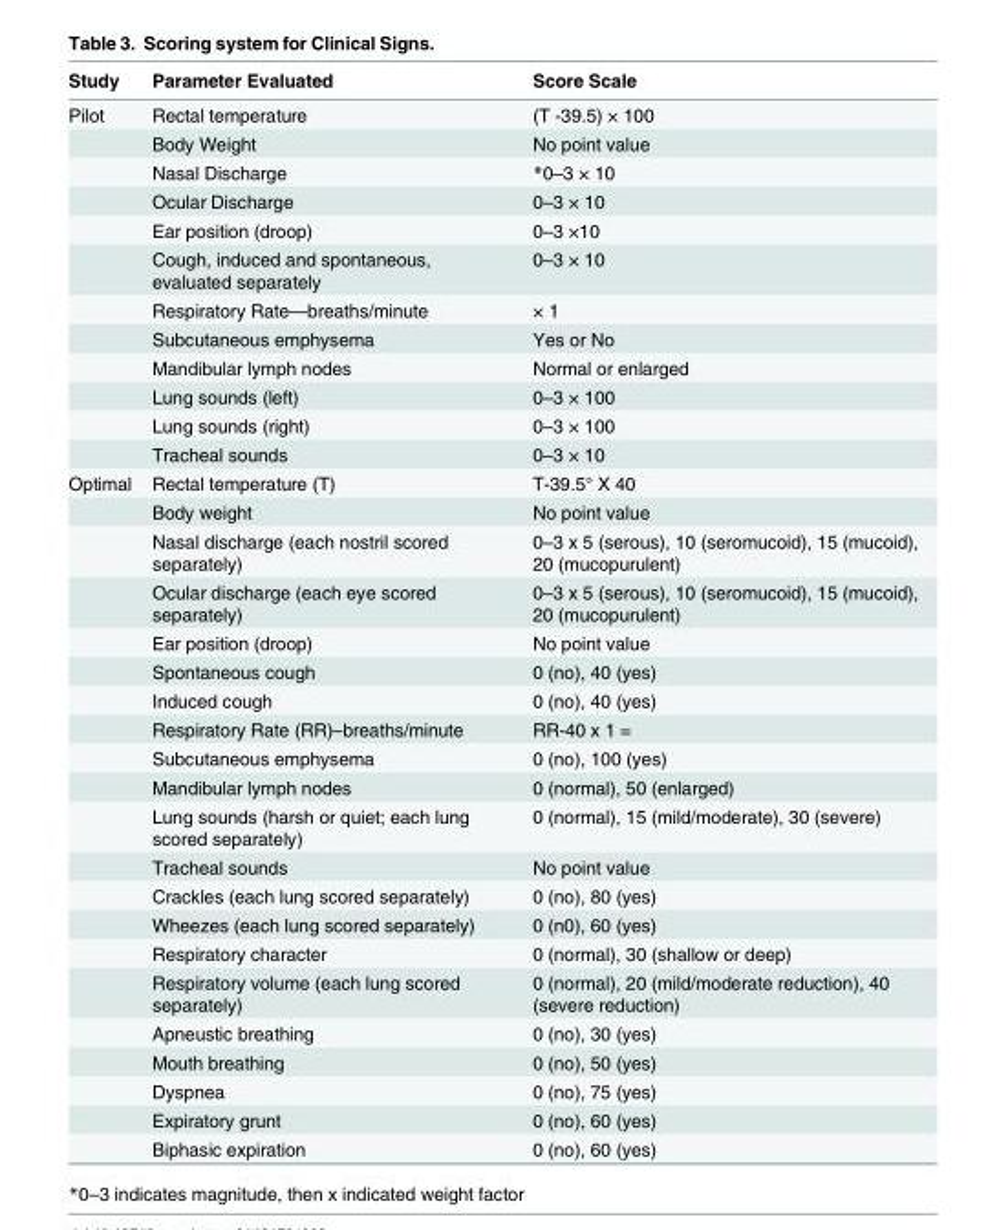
<table><thead><tr><td>Study</td><td>Parameter Evaluated</td><td>Score Scale</td></tr></thead><tbody><tr><td rowspan="12">Pilot</td><td>Rectal temperature</td><td>(T -39.5) × 100</td></tr><tr><td>Body Weight</td><td>No point value</td></tr><tr><td>Nasal Discharge</td><td>*0–3 × 10</td></tr><tr><td>Ocular Discharge</td><td>0–3 × 10</td></tr><tr><td>Ear position (droop)</td><td>0–3 ×10</td></tr><tr><td>Cough, induced and spontaneous, evaluated separately</td><td>0–3 × 10</td></tr><tr><td>Respiratory Rate—breaths/minute</td><td>× 1</td></tr><tr><td>Subcutaneous emphysema</td><td>Yes or No</td></tr><tr><td>Mandibular lymph nodes</td><td>Normal or enlarged</td></tr><tr><td>Lung sounds (left)</td><td>0–3 × 100</td></tr><tr><td>Lung sounds (right)</td><td>0–3 × 100</td></tr><tr><td>Tracheal sounds</td><td>0–3 × 10</td></tr><tr><td rowspan="21">Optimal</td><td>Rectal temperature (T)</td><td>T-39.5° X 40</td></tr><tr><td>Body weight</td><td>No point value</td></tr><tr><td>Nasal discharge (each nostril scored separately)</td><td>0–3 x 5 (serous), 10 (seromucoid), 15 (mucoid), 20 (mucopurulent)</td></tr><tr><td>Ocular discharge (each eye scored separately)</td><td>0–3 x 5 (serous), 10 (seromucoid), 15 (mucoid), 20 (mucopurulent)</td></tr><tr><td>Ear position (droop)</td><td>No point value</td></tr><tr><td>Spontaneous cough</td><td>0 (no), 40 (yes)</td></tr><tr><td>Induced cough</td><td>0 (no), 40 (yes)</td></tr><tr><td>Respiratory Rate (RR)–breaths/minute</td><td>RR-40 x 1 =</td></tr><tr><td>Subcutaneous emphysema</td><td>0 (no), 100 (yes)</td></tr><tr><td>Mandibular lymph nodes</td><td>0 (normal), 50 (enlarged)</td></tr><tr><td>Lung sounds (harsh or quiet; each lung scored separately)</td><td>0 (normal), 15 (mild/moderate), 30 (severe)</td></tr><tr><td>Tracheal sounds</td><td>No point value</td></tr><tr><td>Crackles (each lung scored separately)</td><td>0 (no), 80 (yes)</td></tr><tr><td>Wheezes (each lung scored separately)</td><td>0 (n0), 60 (yes)</td></tr><tr><td>Respiratory character</td><td>0 (normal), 30 (shallow or deep)</td></tr><tr><td>Respiratory volume (each lung scored separately)</td><td>0 (normal), 20 (mild/moderate reduction), 40 (severe reduction)</td></tr><tr><td>Apneustic breathing</td><td>0 (no), 30 (yes)</td></tr><tr><td>Mouth breathing</td><td>0 (no), 50 (yes)</td></tr><tr><td>Dyspnea</td><td>0 (no), 75 (yes)</td></tr><tr><td>Expiratory grunt</td><td>0 (no), 60 (yes)</td></tr><tr><td>Biphasic expiration</td><td>0 (no), 60 (yes)</td></tr></tbody></table>